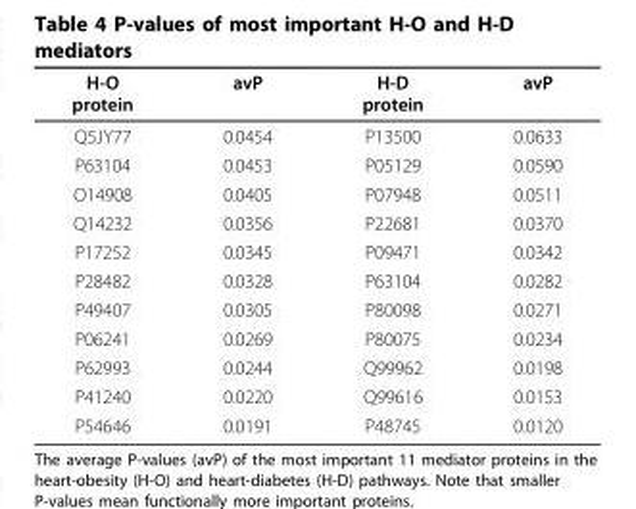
<table><thead><tr><td>H-O protein</td><td>avP</td><td>H-D protein</td><td>avP</td></tr></thead><tbody><tr><td>Q5JY77</td><td>0.0454</td><td>P13500</td><td>0.0633</td></tr><tr><td>P63104</td><td>0.0453</td><td>P05129</td><td>0.0590</td></tr><tr><td>O14908</td><td>0.0405</td><td>P07948</td><td>0.0511</td></tr><tr><td>Q14232</td><td>0.0356</td><td>P22681</td><td>0.0370</td></tr><tr><td>P17252</td><td>0.0345</td><td>P09471</td><td>0.0342</td></tr><tr><td>P28482</td><td>0.0328</td><td>P63104</td><td>0.0282</td></tr><tr><td>P49407</td><td>0.0305</td><td>P80098</td><td>0.0271</td></tr><tr><td>P06241</td><td>0.0269</td><td>P80075</td><td>0.0234</td></tr><tr><td>P62993</td><td>0.0244</td><td>Q99962</td><td>0.0198</td></tr><tr><td>P41240</td><td>0.0220</td><td>Q99616</td><td>0.0153</td></tr><tr><td>P54646</td><td>0.0191</td><td>P48745</td><td>0.0120</td></tr></tbody></table>